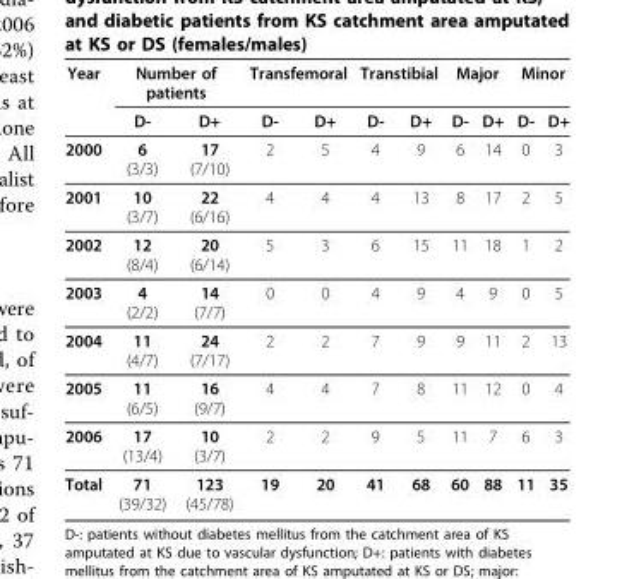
<table><thead><tr><td rowspan="2">Year</td><td colspan="2">Number of patients</td><td colspan="2">Transfemoral</td><td colspan="2">Transtibial</td><td colspan="2">Major</td><td colspan="2">Minor</td></tr><tr><td>D-</td><td>D+</td><td>D-</td><td>D+</td><td>D-</td><td>D+</td><td>D-</td><td>D+</td><td>D-</td><td>D+</td></tr></thead><tbody><tr><td>2000</td><td>6 (3/3)</td><td>17 (7/10)</td><td>2</td><td>5</td><td>4</td><td>9</td><td>6</td><td>14</td><td>0</td><td>3</td></tr><tr><td>2001</td><td>10 (3/7)</td><td>22 (6/16)</td><td>4</td><td>4</td><td>4</td><td>13</td><td>8</td><td>17</td><td>2</td><td>5</td></tr><tr><td>2002</td><td>12 (8/4)</td><td>20 (6/14)</td><td>5</td><td>3</td><td>6</td><td>15</td><td>11</td><td>18</td><td>1</td><td>2</td></tr><tr><td>2003</td><td>4 (2/2)</td><td>14 (7/7)</td><td>0</td><td>0</td><td>4</td><td>9</td><td>4</td><td>9</td><td>0</td><td>5</td></tr><tr><td>2004</td><td>11 (4/7)</td><td>24 (7/17)</td><td>2</td><td>2</td><td>7</td><td>9</td><td>9</td><td>11</td><td>2</td><td>13</td></tr><tr><td>2005</td><td>11 (6/5)</td><td>16 (9/7)</td><td>4</td><td>4</td><td>7</td><td>8</td><td>11</td><td>12</td><td>0</td><td>4</td></tr><tr><td>2006</td><td>17 (13/4)</td><td>10 (3/7)</td><td>2</td><td>2</td><td>9</td><td>5</td><td>11</td><td>7</td><td>6</td><td>3</td></tr><tr><td>Total</td><td>71 (39/32)</td><td>123 (45/78)</td><td>19</td><td>20</td><td>41</td><td>68</td><td>60</td><td>88</td><td>11</td><td>35</td></tr></tbody></table>